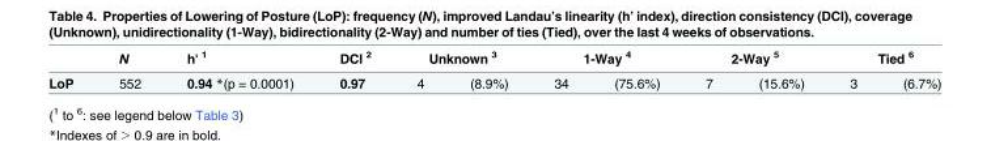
<table><thead><tr><td rowspan="2">LoP</td><td rowspan="2">N 552</td><td rowspan="2">h&#x27; <sup>1</sup> 0.94 *(p = 0.0001)</td><td rowspan="2">DCI <sup>2</sup> 0.97</td><td colspan="2">Unknown <sup>3</sup></td><td colspan="2">1-Way <sup>4</sup></td><td colspan="2">2-Way <sup>5</sup></td><td colspan="2">Tied <sup>6</sup></td></tr><tr><td>4</td><td>(8.9%)</td><td>34</td><td>(75.6%)</td><td>7</td><td>(15.6%)</td><td>3</td><td>(6.7%)</td></tr></thead><tbody></tbody></table>